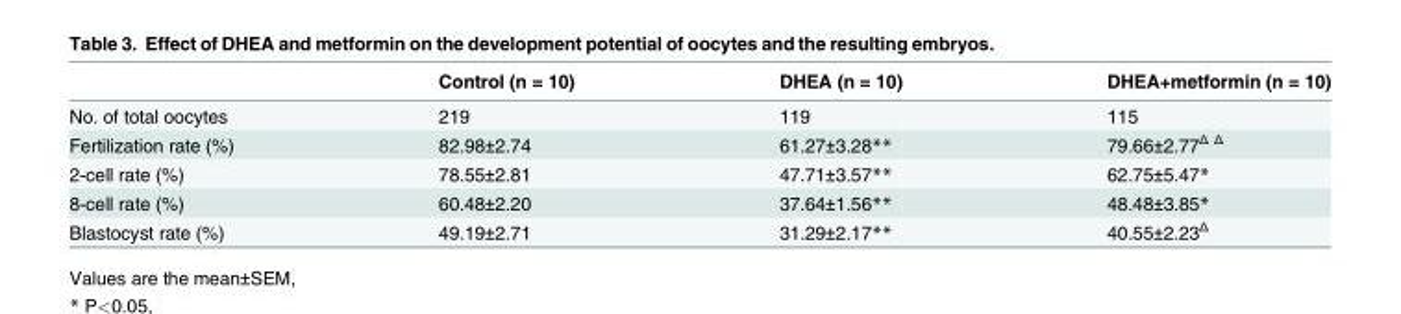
<table><thead><tr><td></td><td>Control (n = 10)</td><td>DHEA (n = 10)</td><td>DHEA+metformin (n = 10)</td></tr></thead><tbody><tr><td>No. of total oocytes</td><td>219</td><td>119</td><td>115</td></tr><tr><td>Fertilization rate (%)</td><td>82.98±2.74</td><td>61.27±3.28**</td><td>79.66±2.77<sup>Δ Δ</sup></td></tr><tr><td>2-cell rate (%)</td><td>78.55±2.81</td><td>47.71±3.57**</td><td>62.75±5.47*</td></tr><tr><td>8-cell rate (%)</td><td>60.48±2.20</td><td>37.64±1.56**</td><td>48.48±3.85*</td></tr><tr><td>Blastocyst rate (%)</td><td>49.19±2.71</td><td>31.29±2.17**</td><td>40.55±2.23<sup>Δ</sup></td></tr></tbody></table>